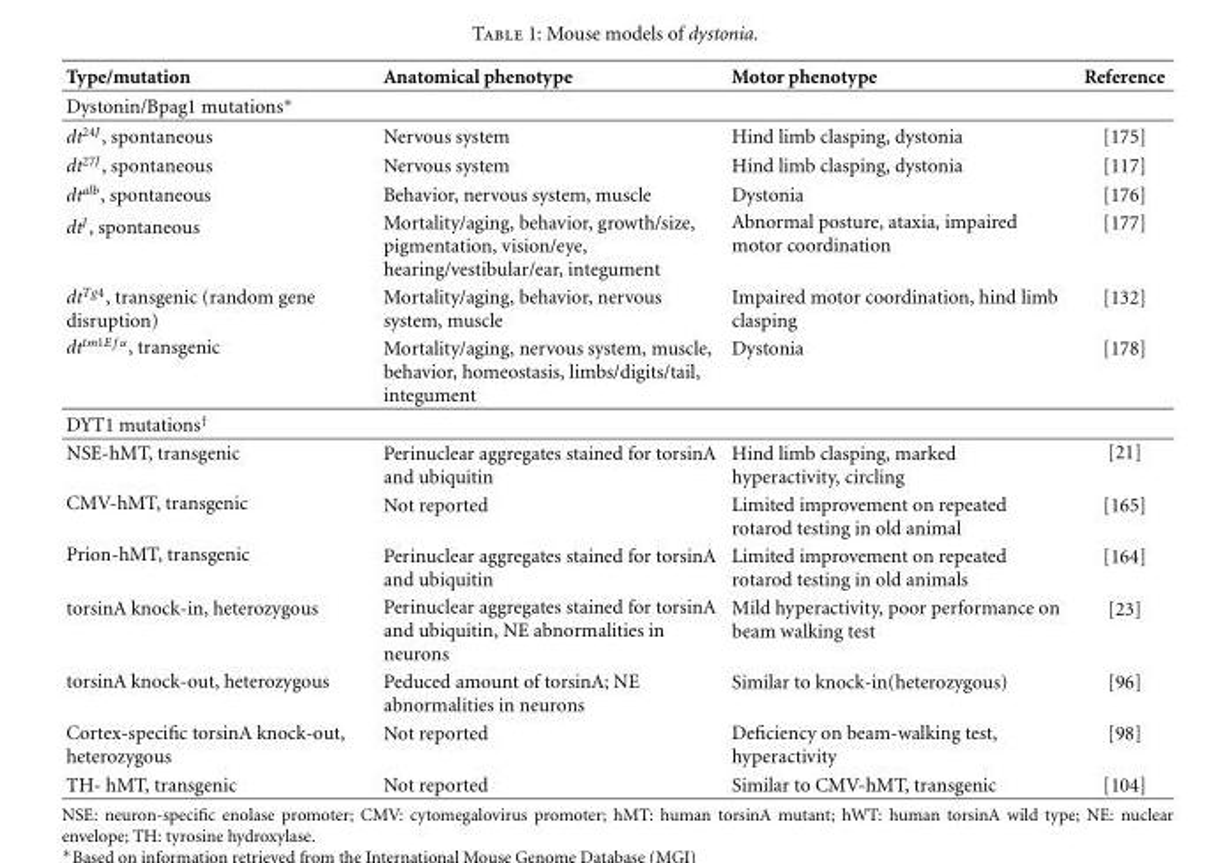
<table><thead><tr><td>Type/mutation</td><td>Anatomical phenotype</td><td>Motor phenotype</td><td>Reference</td></tr></thead><tbody><tr><td colspan="4">Dystonin/Bpag1 mutations∗</td></tr><tr><td>dt<sup>24J</sup>, spontaneous</td><td>Nervous system</td><td>Hind limb clasping, dystonia</td><td>[175]</td></tr><tr><td>dt<sup>27J</sup>, spontaneous</td><td>Nervous system</td><td>Hind limb clasping, dystonia</td><td>[117]</td></tr><tr><td>dt<sup>alb</sup>, spontaneous</td><td>Behavior, nervous system, muscle</td><td>Dystonia</td><td>[176]</td></tr><tr><td>dt<sup>J</sup>, spontaneous</td><td>Mortality/aging, behavior, growth/size, pigmentation, vision/eye, hearing/vestibular/ear, integument</td><td>Abnormal posture, ataxia, impaired motor coordination</td><td>[177]</td></tr><tr><td>dt<sup>Tg4</sup>, transgenic (random gene disruption)</td><td>Mortality/aging, behavior, nervous system, muscle</td><td>Impaired motor coordination, hind limb clasping</td><td>[132]</td></tr><tr><td>dt<sup>tm1E f u</sup>, transgenic</td><td>Mortality/aging, nervous system, muscle, behavior, homeostasis, limbs/digits/tail, integument</td><td>Dystonia</td><td>[178]</td></tr><tr><td colspan="4">DYT1 mutations<sup>†</sup></td></tr><tr><td>NSE-hMT, transgenic</td><td>Perinuclear aggregates stained for torsinA and ubiquitin</td><td>Hind limb clasping, marked hyperactivity, circling</td><td>[21]</td></tr><tr><td>CMV-hMT, transgenic</td><td>Not reported</td><td>Limited improvement on repeated rotarod testing in old animal</td><td>[165]</td></tr><tr><td>Prion-hMT, transgenic</td><td>Perinuclear aggregates stained for torsinA and ubiquitin</td><td>Limited improvement on repeated rotarod testing in old animals</td><td>[164]</td></tr><tr><td>torsinA knock-in, heterozygous</td><td>Perinuclear aggregates stained for torsinA and ubiquitin, NE abnormalities in neurons</td><td>Mild hyperactivity, poor performance on beam walking test</td><td>[23]</td></tr><tr><td>torsinA knock-out, heterozygous</td><td>Peduced amount of torsinA; NE abnormalities in neurons</td><td>Similar to knock-in(heterozygous)</td><td>[96]</td></tr><tr><td>Cortex-specific torsinA knock-out, heterozygous</td><td>Not reported</td><td>Deficiency on beam-walking test, hyperactivity</td><td>[98]</td></tr><tr><td>TH- hMT, transgenic</td><td>Not reported</td><td>Similar to CMV-hMT, transgenic</td><td>[104]</td></tr></tbody></table>